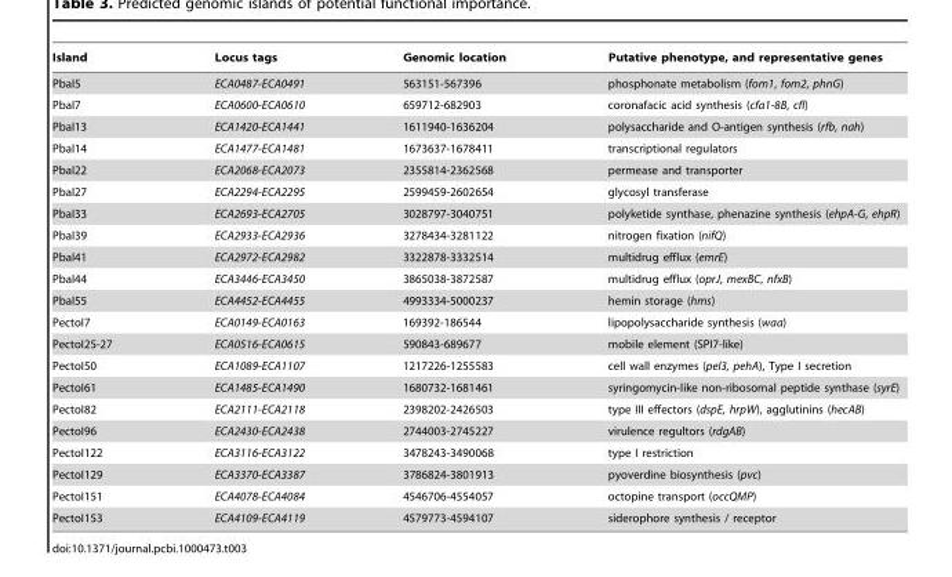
<table><thead><tr><td>Island</td><td>Locus tags</td><td>Genomic location</td><td>Putative phenotype, and representative genes</td></tr></thead><tbody><tr><td>PbaI5</td><td>ECA0487-ECA0491</td><td>563151-567396</td><td>phosphonate metabolism (fom1, fom2, phnG)</td></tr><tr><td>PbaI7</td><td>ECA0600-ECA0610</td><td>659712-682903</td><td>coronafacic acid synthesis (cfa1-8B, cfl)</td></tr><tr><td>PbaI13</td><td>ECA1420-ECA1441</td><td>1611940-1636204</td><td>polysaccharide and O-antigen synthesis (rfb, nah)</td></tr><tr><td>PbaI14</td><td>ECA1477-ECA1481</td><td>1673637-1678411</td><td>transcriptional regulators</td></tr><tr><td>PbaI22</td><td>ECA2068-ECA2073</td><td>2355814-2362568</td><td>permease and transporter</td></tr><tr><td>PbaI27</td><td>ECA2294-ECA2295</td><td>2599459-2602654</td><td>glycosyl transferase</td></tr><tr><td>PbaI33</td><td>ECA2693-ECA2705</td><td>3028797-3040751</td><td>polyketide synthase, phenazine synthesis (ehpA-G, ehpR)</td></tr><tr><td>PbaI39</td><td>ECA2933-ECA2936</td><td>3278434-3281122</td><td>nitrogen fixation (nifQ)</td></tr><tr><td>PbaI41</td><td>ECA2972-ECA2982</td><td>3322878-3332514</td><td>multidrug efflux (emrE)</td></tr><tr><td>PbaI44</td><td>ECA3446-ECA3450</td><td>3865038-3872587</td><td>multidrug efflux (oprJ, mexBC, nfxB)</td></tr><tr><td>PbaI55</td><td>ECA4452-ECA4455</td><td>4993334-5000237</td><td>hemin storage (hms)</td></tr><tr><td>PectoI7</td><td>ECA0149-ECA0163</td><td>169392-186544</td><td>lipopolysaccharide synthesis (waa)</td></tr><tr><td>PectoI25-27</td><td>ECA0516-ECA0615</td><td>590843-689677</td><td>mobile element (SPI7-like)</td></tr><tr><td>PectoI50</td><td>ECA1089-ECA1107</td><td>1217226-1255583</td><td>cell wall enzymes (pel3, pehA), Type I secretion</td></tr><tr><td>PectoI61</td><td>ECA1485-ECA1490</td><td>1680732-1681461</td><td>syringomycin-like non-ribosomal peptide synthase (syrE)</td></tr><tr><td>PectoI82</td><td>ECA2111-ECA2118</td><td>2398202-2426503</td><td>type III effectors (dspE, hrpW), agglutinins (hecAB)</td></tr><tr><td>PectoI96</td><td>ECA2430-ECA2438</td><td>2744003-2745227</td><td>virulence regultors (rdgAB)</td></tr><tr><td>PectoI122</td><td>ECA3116-ECA3122</td><td>3478243-3490068</td><td>type I restriction</td></tr><tr><td>PectoI129</td><td>ECA3370-ECA3387</td><td>3786824-3801913</td><td>pyoverdine biosynthesis (pvc)</td></tr><tr><td>PectoI151</td><td>ECA4078-ECA4084</td><td>4546706-4554057</td><td>octopine transport (occQMP)</td></tr><tr><td>PectoI153</td><td>ECA4109-ECA4119</td><td>4579773-4594107</td><td>siderophore synthesis / receptor</td></tr></tbody></table>